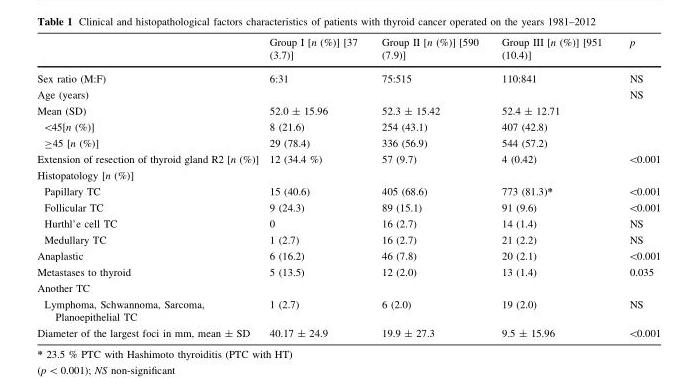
<table><thead><tr><td></td><td>Group I [n (%)] [37 (3.7)]</td><td>Group II [n (%)] [590 (7.9)]</td><td>Group III [n (%)] [951 (10.4)]</td><td>p</td></tr></thead><tbody><tr><td>Sex ratio (M:F)</td><td>6:31</td><td>75:515</td><td>110:841</td><td>NS</td></tr><tr><td colspan="4">Age (years)</td><td rowspan="4">NS</td></tr><tr><td>Mean (SD)</td><td>52.0 ± 15.96</td><td>52.3 ± 15.42</td><td>52.4 ± 12.71</td></tr><tr><td>&lt;45[n (%)]</td><td>8 (21.6)</td><td>254 (43.1)</td><td>407 (42.8)</td></tr><tr><td>≥45 [n (%)]</td><td>29 (78.4)</td><td>336 (56.9)</td><td>544 (57.2)</td></tr><tr><td>Extension of resection of thyroid gland R2 [n (%)]</td><td>12 (34.4 %)</td><td>57 (9.7)</td><td>4 (0.42)</td><td>&lt;0.001</td></tr><tr><td colspan="5">Histopatology [n (%)]</td></tr><tr><td>Papillary TC</td><td>15 (40.6)</td><td>405 (68.6)</td><td>773 (81.3)*</td><td>&lt;0.001</td></tr><tr><td>Follicular TC</td><td>9 (24.3)</td><td>89 (15.1)</td><td>91 (9.6)</td><td>&lt;0.001</td></tr><tr><td>Hurthl’e cell TC</td><td>0</td><td>16 (2.7)</td><td>14 (1.4)</td><td>NS</td></tr><tr><td>Medullary TC</td><td>1 (2.7)</td><td>16 (2.7)</td><td>21 (2.2)</td><td>NS</td></tr><tr><td>Anaplastic</td><td>6 (16.2)</td><td>46 (7.8)</td><td>20 (2.1)</td><td>&lt;0.001</td></tr><tr><td>Metastases to thyroid</td><td>5 (13.5)</td><td>12 (2.0)</td><td>13 (1.4)</td><td>0.035</td></tr><tr><td colspan="5">Another TC</td></tr><tr><td>Lymphoma, Schwannoma, Sarcoma, Planoepithelial TC</td><td>1 (2.7)</td><td>6 (2.0)</td><td>19 (2.0)</td><td>NS</td></tr><tr><td>Diameter of the largest foci in mm, mean ± SD</td><td>40.17 ± 24.9</td><td>19.9 ± 27.3</td><td>9.5 ± 15.96</td><td>&lt;0.001</td></tr></tbody></table>